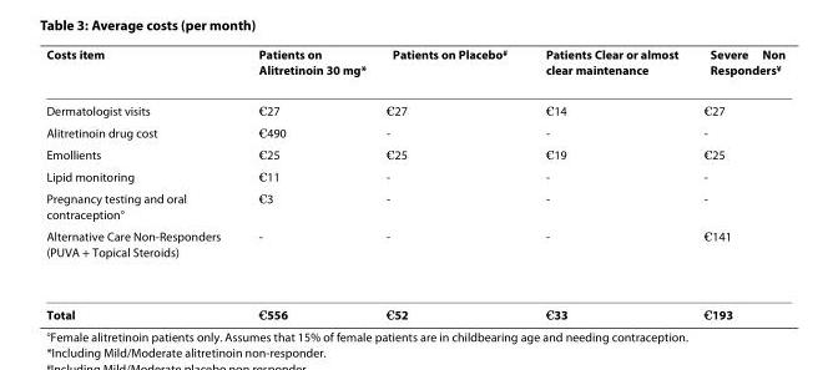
<table><thead><tr><td>Costs item</td><td>Patients on Alitretinoin 30 mg*</td><td>Patients on Placebo<sup>#</sup></td><td>Patients Clear or almost clear maintenance</td><td>Severe Non Responders<sup>¥</sup></td></tr></thead><tbody><tr><td>Dermatologist visits</td><td>€27</td><td>€27</td><td>€14</td><td>€27</td></tr><tr><td>Alitretinoin drug cost</td><td>€490</td><td>-</td><td>-</td><td>-</td></tr><tr><td>Emollients</td><td>€25</td><td>€25</td><td>€19</td><td>€25</td></tr><tr><td>Lipid monitoring</td><td>€11</td><td>-</td><td>-</td><td>-</td></tr><tr><td>Pregnancy testing and oral contraception°</td><td>€3</td><td>-</td><td>-</td><td>-</td></tr><tr><td>Alternative Care Non-Responders (PUVA + Topical Steroids)</td><td>-</td><td>-</td><td>-</td><td>€141</td></tr><tr><td>Total</td><td>€556</td><td>€52</td><td>€33</td><td>€193</td></tr></tbody></table>